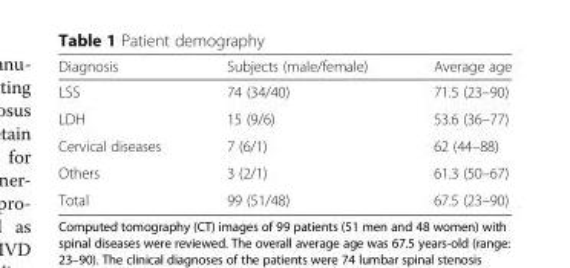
<table><thead><tr><td>Diagnosis</td><td>Subjects (male/female)</td><td>Average age</td></tr></thead><tbody><tr><td>LSS</td><td>74 (34/40)</td><td>71.5 (23–90)</td></tr><tr><td>LDH</td><td>15 (9/6)</td><td>53.6 (36–77)</td></tr><tr><td>Cervical diseases</td><td>7 (6/1)</td><td>62 (44–88)</td></tr><tr><td>Others</td><td>3 (2/1)</td><td>61.3 (50–67)</td></tr><tr><td>Total</td><td>99 (51/48)</td><td>67.5 (23–90)</td></tr></tbody></table>